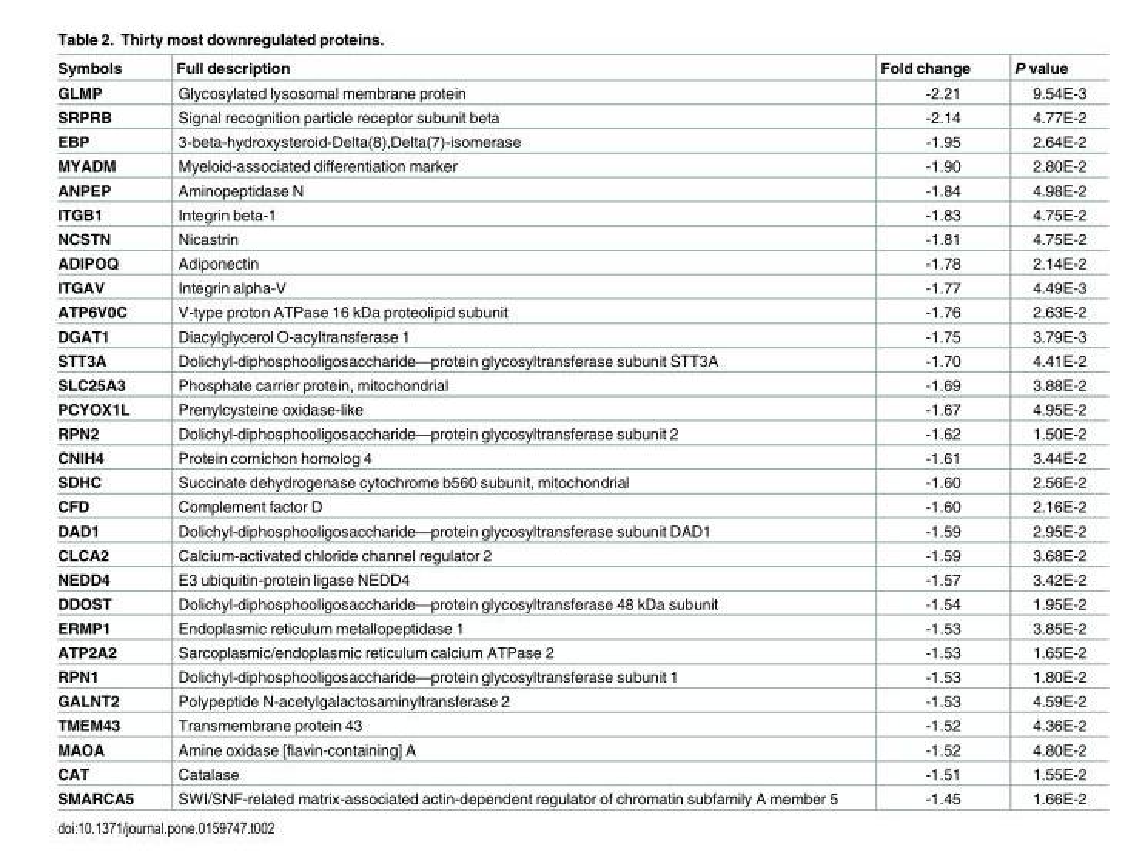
<table><thead><tr><td>Symbols</td><td>Full description</td><td>Fold change</td><td>P value</td></tr></thead><tbody><tr><td>GLMP</td><td>Glycosylated lysosomal membrane protein</td><td>-2.21</td><td>9.54E-3</td></tr><tr><td>SRPRB</td><td>Signal recognition particle receptor subunit beta</td><td>-2.14</td><td>4.77E-2</td></tr><tr><td>EBP</td><td>3-beta-hydroxysteroid-Delta(8),Delta(7)-isomerase</td><td>-1.95</td><td>2.64E-2</td></tr><tr><td>MYADM</td><td>Myeloid-associated differentiation marker</td><td>-1.90</td><td>2.80E-2</td></tr><tr><td>ANPEP</td><td>Aminopeptidase N</td><td>-1.84</td><td>4.98E-2</td></tr><tr><td>ITGB1</td><td>Integrin beta-1</td><td>-1.83</td><td>4.75E-2</td></tr><tr><td>NCSTN</td><td>Nicastrin</td><td>-1.81</td><td>4.75E-2</td></tr><tr><td>ADIPOQ</td><td>Adiponectin</td><td>-1.78</td><td>2.14E-2</td></tr><tr><td>ITGAV</td><td>Integrin alpha-V</td><td>-1.77</td><td>4.49E-3</td></tr><tr><td>ATP6V0C</td><td>V-type proton ATPase 16 kDa proteolipid subunit</td><td>-1.76</td><td>2.63E-2</td></tr><tr><td>DGAT1</td><td>Diacylglycerol O-acyltransferase 1</td><td>-1.75</td><td>3.79E-3</td></tr><tr><td>STT3A</td><td>Dolichyl-diphosphooligosaccharide—protein glycosyltransferase subunit STT3A</td><td>-1.70</td><td>4.41E-2</td></tr><tr><td>SLC25A3</td><td>Phosphate carrier protein, mitochondrial</td><td>-1.69</td><td>3.88E-2</td></tr><tr><td>PCYOX1L</td><td>Prenylcysteine oxidase-like</td><td>-1.67</td><td>4.95E-2</td></tr><tr><td>RPN2</td><td>Dolichyl-diphosphooligosaccharide—protein glycosyltransferase subunit 2</td><td>-1.62</td><td>1.50E-2</td></tr><tr><td>CNIH4</td><td>Protein cornichon homolog 4</td><td>-1.61</td><td>3.44E-2</td></tr><tr><td>SDHC</td><td>Succinate dehydrogenase cytochrome b560 subunit, mitochondrial</td><td>-1.60</td><td>2.56E-2</td></tr><tr><td>CFD</td><td>Complement factor D</td><td>-1.60</td><td>2.16E-2</td></tr><tr><td>DAD1</td><td>Dolichyl-diphosphooligosaccharide—protein glycosyltransferase subunit DAD1</td><td>-1.59</td><td>2.95E-2</td></tr><tr><td>CLCA2</td><td>Calcium-activated chloride channel regulator 2</td><td>-1.59</td><td>3.68E-2</td></tr><tr><td>NEDD4</td><td>E3 ubiquitin-protein ligase NEDD4</td><td>-1.57</td><td>3.42E-2</td></tr><tr><td>DDOST</td><td>Dolichyl-diphosphooligosaccharide—protein glycosyltransferase 48 kDa subunit</td><td>-1.54</td><td>1.95E-2</td></tr><tr><td>ERMP1</td><td>Endoplasmic reticulum metallopeptidase 1</td><td>-1.53</td><td>3.85E-2</td></tr><tr><td>ATP2A2</td><td>Sarcoplasmic/endoplasmic reticulum calcium ATPase 2</td><td>-1.53</td><td>1.65E-2</td></tr><tr><td>RPN1</td><td>Dolichyl-diphosphooligosaccharide—protein glycosyltransferase subunit 1</td><td>-1.53</td><td>1.80E-2</td></tr><tr><td>GALNT2</td><td>Polypeptide N-acetylgalactosaminyltransferase 2</td><td>-1.53</td><td>4.59E-2</td></tr><tr><td>TMEM43</td><td>Transmembrane protein 43</td><td>-1.52</td><td>4.36E-2</td></tr><tr><td>MAOA</td><td>Amine oxidase [flavin-containing] A</td><td>-1.52</td><td>4.80E-2</td></tr><tr><td>CAT</td><td>Catalase</td><td>-1.51</td><td>1.55E-2</td></tr><tr><td>SMARCA5</td><td>SWI/SNF-related matrix-associated actin-dependent regulator of chromatin subfamily A member 5</td><td>-1.45</td><td>1.66E-2</td></tr></tbody></table>